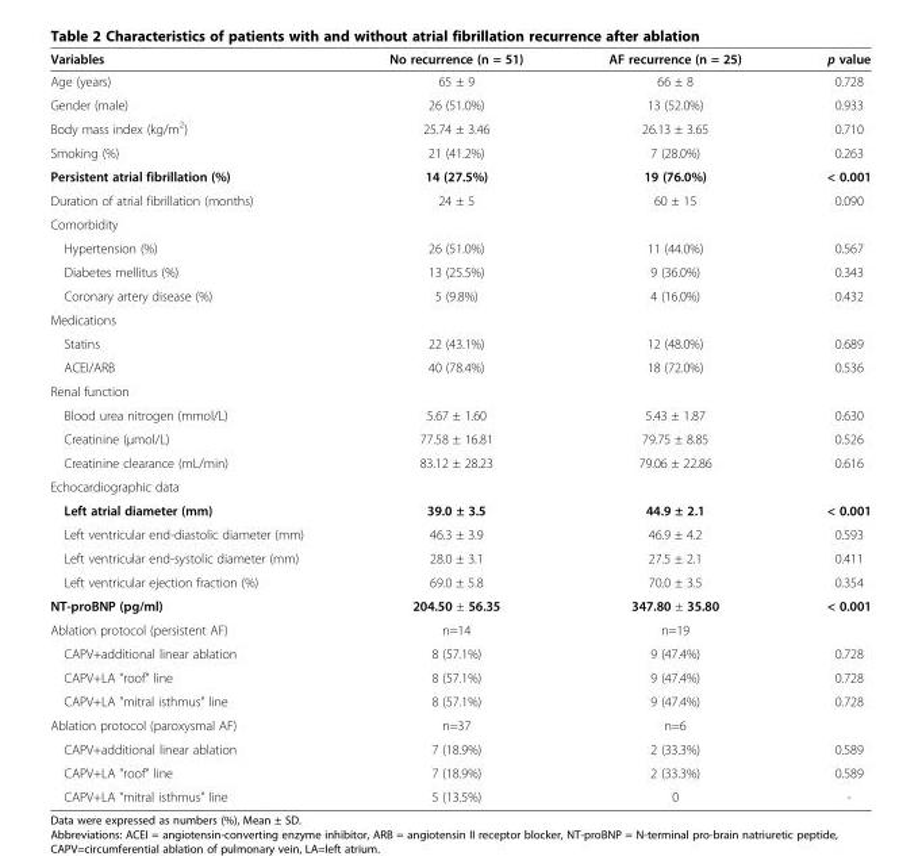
<table><thead><tr><td>Variables</td><td>No recurrence (n = 51)</td><td>AF recurrence (n = 25)</td><td>p value</td></tr></thead><tbody><tr><td>Age (years)</td><td>65 ± 9</td><td>66 ± 8</td><td>0.728</td></tr><tr><td>Gender (male)</td><td>26 (51.0%)</td><td>13 (52.0%)</td><td>0.933</td></tr><tr><td>Body mass index (kg/m<sup>2</sup>)</td><td>25.74 ± 3.46</td><td>26.13 ± 3.65</td><td>0.710</td></tr><tr><td>Smoking (%)</td><td>21 (41.2%)</td><td>7 (28.0%)</td><td>0.263</td></tr><tr><td>Persistent atrial fibrillation (%)</td><td>14 (27.5%)</td><td>19 (76.0%)</td><td>&lt; 0.001</td></tr><tr><td>Duration of atrial fibrillation (months)</td><td>24 ± 5</td><td>60 ± 15</td><td>0.090</td></tr><tr><td colspan="4">Comorbidity</td></tr><tr><td>Hypertension (%)</td><td>26 (51.0%)</td><td>11 (44.0%)</td><td>0.567</td></tr><tr><td>Diabetes mellitus (%)</td><td>13 (25.5%)</td><td>9 (36.0%)</td><td>0.343</td></tr><tr><td>Coronary artery disease (%)</td><td>5 (9.8%)</td><td>4 (16.0%)</td><td>0.432</td></tr><tr><td colspan="4">Medications</td></tr><tr><td>Statins</td><td>22 (43.1%)</td><td>12 (48.0%)</td><td>0.689</td></tr><tr><td>ACEI/ARB</td><td>40 (78.4%)</td><td>18 (72.0%)</td><td>0.536</td></tr><tr><td colspan="4">Renal function</td></tr><tr><td>Blood urea nitrogen (mmol/L)</td><td>5.67 ± 1.60</td><td>5.43 ± 1.87</td><td>0.630</td></tr><tr><td>Creatinine (μmol/L)</td><td>77.58 ± 16.81</td><td>79.75 ± 8.85</td><td>0.526</td></tr><tr><td>Creatinine clearance (mL/min)</td><td>83.12 ± 28.23</td><td>79.06 ± 22.86</td><td>0.616</td></tr><tr><td colspan="4">Echocardiographic data</td></tr><tr><td>Left atrial diameter (mm)</td><td>39.0 ± 3.5</td><td>44.9 ± 2.1</td><td>&lt; 0.001</td></tr><tr><td>Left ventricular end-diastolic diameter (mm)</td><td>46.3 ± 3.9</td><td>46.9 ± 4.2</td><td>0.593</td></tr><tr><td>Left ventricular end-systolic diameter (mm)</td><td>28.0 ± 3.1</td><td>27.5 ± 2.1</td><td>0.411</td></tr><tr><td>Left ventricular ejection fraction (%)</td><td>69.0 ± 5.8</td><td>70.0 ± 3.5</td><td>0.354</td></tr><tr><td>NT-proBNP (pg/ml)</td><td>204.50 ± 56.35</td><td>347.80 ± 35.80</td><td>&lt; 0.001</td></tr><tr><td>Ablation protocol (persistent AF)</td><td>n=14</td><td>n=19</td><td></td></tr><tr><td>CAPV+additional linear ablation</td><td>8 (57.1%)</td><td>9 (47.4%)</td><td>0.728</td></tr><tr><td>CAPV+LA &quot;roof&quot; line</td><td>8 (57.1%)</td><td>9 (47.4%)</td><td>0.728</td></tr><tr><td>CAPV+LA &quot;mitral isthmus&quot; line</td><td>8 (57.1%)</td><td>9 (47.4%)</td><td>0.728</td></tr><tr><td>Ablation protocol (paroxysmal AF)</td><td>n=37</td><td>n=6</td><td></td></tr><tr><td>CAPV+additional linear ablation</td><td>7 (18.9%)</td><td>2 (33.3%)</td><td>0.589</td></tr><tr><td>CAPV+LA &quot;roof&quot; line</td><td>7 (18.9%)</td><td>2 (33.3%)</td><td>0.589</td></tr><tr><td>CAPV+LA &quot;mitral isthmus&quot; line</td><td>5 (13.5%)</td><td>0</td><td>-</td></tr></tbody></table>